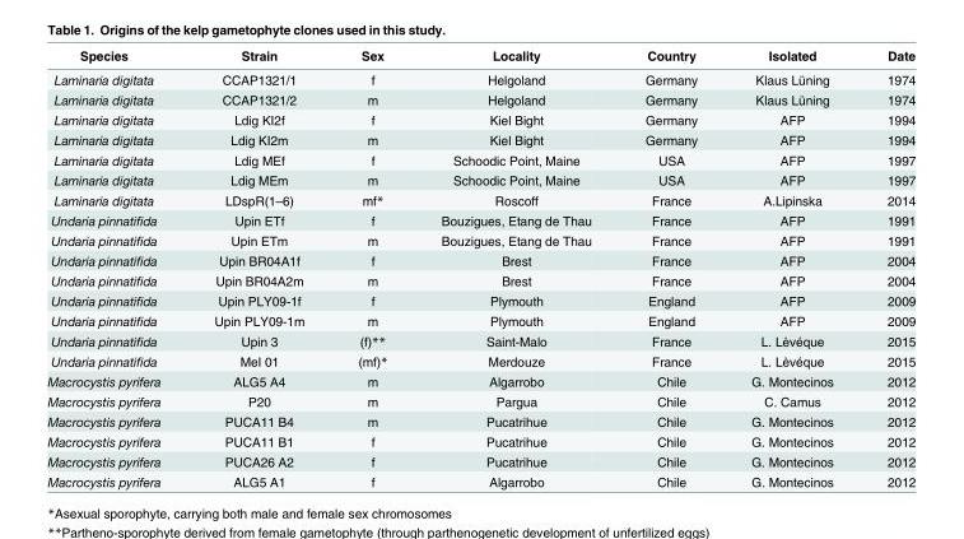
<table><thead><tr><td>Species</td><td>Strain</td><td>Sex</td><td>Locality</td><td>Country</td><td>Isolated</td><td>Date</td></tr></thead><tbody><tr><td>Laminaria digitata</td><td>CCAP1321/1</td><td>f</td><td>Helgoland</td><td>Germany</td><td>Klaus Lüning</td><td>1974</td></tr><tr><td>Laminaria digitata</td><td>CCAP1321/2</td><td>m</td><td>Helgoland</td><td>Germany</td><td>Klaus Lüning</td><td>1974</td></tr><tr><td>Laminaria digitata</td><td>Ldig KI2f</td><td>f</td><td>Kiel Bight</td><td>Germany</td><td>AFP</td><td>1994</td></tr><tr><td>Laminaria digitata</td><td>Ldig KI2m</td><td>m</td><td>Kiel Bight</td><td>Germany</td><td>AFP</td><td>1994</td></tr><tr><td>Laminaria digitata</td><td>Ldig MEf</td><td>f</td><td>Schoodic Point, Maine</td><td>USA</td><td>AFP</td><td>1997</td></tr><tr><td>Laminaria digitata</td><td>Ldig MEm</td><td>m</td><td>Schoodic Point, Maine</td><td>USA</td><td>AFP</td><td>1997</td></tr><tr><td>Laminaria digitata</td><td>LDspR(1–6)</td><td>mf*</td><td>Roscoff</td><td>France</td><td>A.Lipinska</td><td>2014</td></tr><tr><td>Undaria pinnatifida</td><td>Upin ETf</td><td>f</td><td>Bouzigues, Etang de Thau</td><td>France</td><td>AFP</td><td>1991</td></tr><tr><td>Undaria pinnatifida</td><td>Upin ETm</td><td>m</td><td>Bouzigues, Etang de Thau</td><td>France</td><td>AFP</td><td>1991</td></tr><tr><td>Undaria pinnatifida</td><td>Upin BR04A1f</td><td>f</td><td>Brest</td><td>France</td><td>AFP</td><td>2004</td></tr><tr><td>Undaria pinnatifida</td><td>Upin BR04A2m</td><td>m</td><td>Brest</td><td>France</td><td>AFP</td><td>2004</td></tr><tr><td>Undaria pinnatifida</td><td>Upin PLY09-1f</td><td>f</td><td>Plymouth</td><td>England</td><td>AFP</td><td>2009</td></tr><tr><td>Undaria pinnatifida</td><td>Upin PLY09-1m</td><td>m</td><td>Plymouth</td><td>England</td><td>AFP</td><td>2009</td></tr><tr><td>Undaria pinnatifida</td><td>Upin 3</td><td>(f)**</td><td>Saint-Malo</td><td>France</td><td>L. Lèvéque</td><td>2015</td></tr><tr><td>Undaria pinnatifida</td><td>MeI 01</td><td>(mf)*</td><td>Merdouze</td><td>France</td><td>L. Lèvéque</td><td>2015</td></tr><tr><td>Macrocystis pyrifera</td><td>ALG5 A4</td><td>m</td><td>Algarrobo</td><td>Chile</td><td>G. Montecinos</td><td>2012</td></tr><tr><td>Macrocystis pyrifera</td><td>P20</td><td>m</td><td>Pargua</td><td>Chile</td><td>C. Camus</td><td>2012</td></tr><tr><td>Macrocystis pyrifera</td><td>PUCA11 B4</td><td>m</td><td>Pucatrihue</td><td>Chile</td><td>G. Montecinos</td><td>2012</td></tr><tr><td>Macrocystis pyrifera</td><td>PUCA11 B1</td><td>f</td><td>Pucatrihue</td><td>Chile</td><td>G. Montecinos</td><td>2012</td></tr><tr><td>Macrocystis pyrifera</td><td>PUCA26 A2</td><td>f</td><td>Pucatrihue</td><td>Chile</td><td>G. Montecinos</td><td>2012</td></tr><tr><td>Macrocystis pyrifera</td><td>ALG5 A1</td><td>f</td><td>Algarrobo</td><td>Chile</td><td>G. Montecinos</td><td>2012</td></tr></tbody></table>